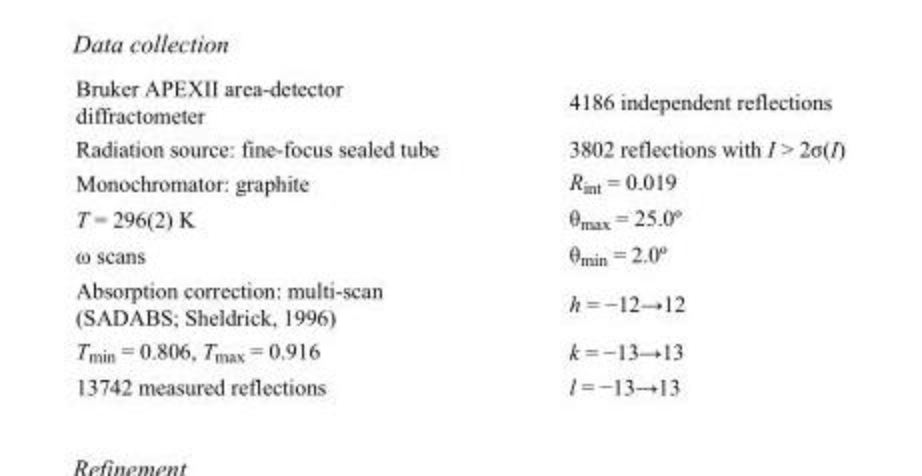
<table><tbody><tr><td>Bruker APEXII area-detector diffractometer</td><td>4186 independent reflections</td></tr><tr><td>Radiation source: fine-focus sealed tube</td><td>3802 reflections with I &gt; 2σ(I)</td></tr><tr><td>Monochromator: graphite</td><td>R<sub>int</sub> = 0.019</td></tr><tr><td>T = 296(2) K</td><td>θ<sub>max</sub> = 25.0º</td></tr><tr><td>ω scans</td><td>θ<sub>min</sub> = 2.0º</td></tr><tr><td>Absorption correction: multi-scan (SADABS; Sheldrick, 1996)</td><td>h = −12→12</td></tr><tr><td>T<sub>min</sub> = 0.806, T<sub>max</sub> = 0.916</td><td>k = −13→13</td></tr><tr><td>13742 measured reflections</td><td>l = −13→13</td></tr></tbody></table>